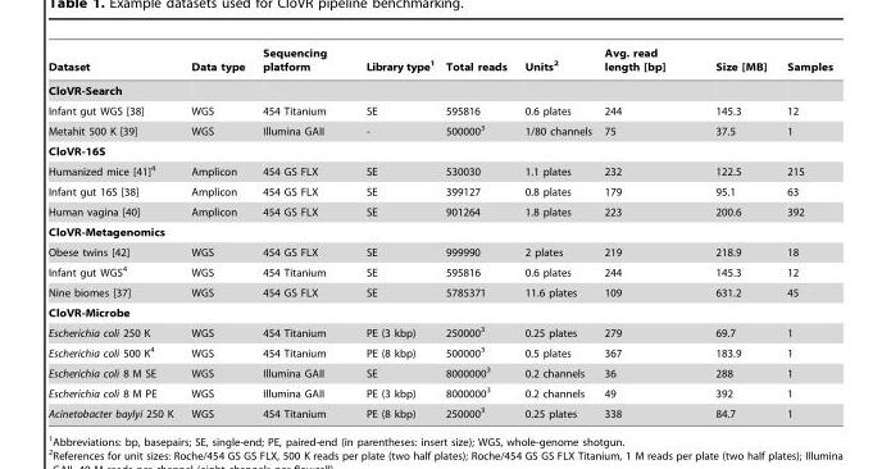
<table><thead><tr><td>Dataset</td><td>Data type</td><td>Sequencing platform</td><td>Library type<sup>1</sup></td><td>Total reads</td><td>Units<sup>2</sup></td><td>Avg. read length [bp]</td><td>Size [MB]</td><td>Samples</td></tr></thead><tbody><tr><td colspan="9">CloVR-Search</td></tr><tr><td>Infant gut WGS [38]</td><td>WGS</td><td>454 Titanium</td><td>SE</td><td>595816</td><td>0.6 plates</td><td>244</td><td>145.3</td><td>12</td></tr><tr><td>Metahit 500 K [39]</td><td>WGS</td><td>Illumina GAII</td><td>-</td><td>500000<sup>3</sup></td><td>1/80 channels</td><td>75</td><td>37.5</td><td>1</td></tr><tr><td colspan="9">CloVR-16S</td></tr><tr><td>Humanized mice [41]4</td><td>Amplicon</td><td>454 GS FLX</td><td>SE</td><td>530030</td><td>1.1 plates</td><td>232</td><td>122.5</td><td>215</td></tr><tr><td>Infant gut 16S [38]</td><td>Amplicon</td><td>454 GS FLX</td><td>SE</td><td>399127</td><td>0.8 plates</td><td>179</td><td>95.1</td><td>63</td></tr><tr><td>Human vagina [40]</td><td>Amplicon</td><td>454 GS FLX</td><td>SE</td><td>901264</td><td>1.8 plates</td><td>223</td><td>200.6</td><td>392</td></tr><tr><td colspan="9">CloVR-Metagenomics</td></tr><tr><td>Obese twins [42]</td><td>WGS</td><td>454 GS FLX</td><td>SE</td><td>999990</td><td>2 plates</td><td>219</td><td>218.9</td><td>18</td></tr><tr><td>Infant gut WGS<sup>4</sup></td><td>WGS</td><td>454 Titanium</td><td>SE</td><td>595816</td><td>0.6 plates</td><td>244</td><td>145.3</td><td>12</td></tr><tr><td>Nine biomes [37]</td><td>WGS</td><td>454 GS FLX</td><td>SE</td><td>5785371</td><td>11.6 plates</td><td>109</td><td>631.2</td><td>45</td></tr><tr><td colspan="9">CloVR-Microbe</td></tr><tr><td>Escherichia coli 250 K</td><td>WGS</td><td>454 Titanium</td><td>PE (3 kbp)</td><td>250000<sup>3</sup></td><td>0.25 plates</td><td>279</td><td>69.7</td><td>1</td></tr><tr><td>Escherichia coli 500 K<sup>4</sup></td><td>WGS</td><td>454 Titanium</td><td>PE (8 kbp)</td><td>500000<sup>3</sup></td><td>0.5 plates</td><td>367</td><td>183.9</td><td>1</td></tr><tr><td>Escherichia coli 8 M SE</td><td>WGS</td><td>Illumina GAII</td><td>SE</td><td>8000000<sup>3</sup></td><td>0.2 channels</td><td>36</td><td>288</td><td>1</td></tr><tr><td>Escherichia coli 8 M PE</td><td>WGS</td><td>Illumina GAII</td><td>PE (3 kbp)</td><td>8000000<sup>3</sup></td><td>0.2 channels</td><td>49</td><td>392</td><td>1</td></tr><tr><td>Acinetobacter baylyi 250 K</td><td>WGS</td><td>454 Titanium</td><td>PE (8 kbp)</td><td>250000<sup>3</sup></td><td>0.25 plates</td><td>338</td><td>84.7</td><td>1</td></tr></tbody></table>